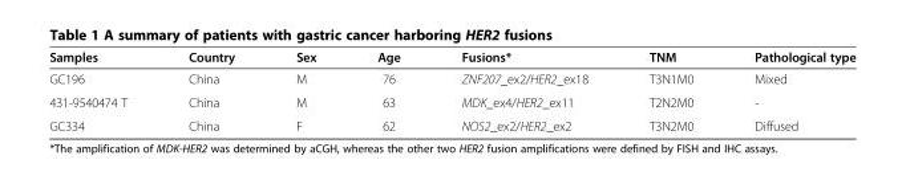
<table><thead><tr><td>Samples</td><td>Country</td><td>Sex</td><td>Age</td><td>Fusions*</td><td>TNM</td><td>Pathological type</td></tr></thead><tbody><tr><td>GC196</td><td>China</td><td>M</td><td>76</td><td>ZNF207_ex2/HER2_ex18</td><td>T3N1M0</td><td>Mixed</td></tr><tr><td>431-9540474 T</td><td>China</td><td>M</td><td>63</td><td>MDK_ex4/HER2_ex11</td><td>T2N2M0</td><td>-</td></tr><tr><td>GC334</td><td>China</td><td>F</td><td>62</td><td>NOS2_ex2/HER2_ex2</td><td>T3N2M0</td><td>Diffused</td></tr></tbody></table>